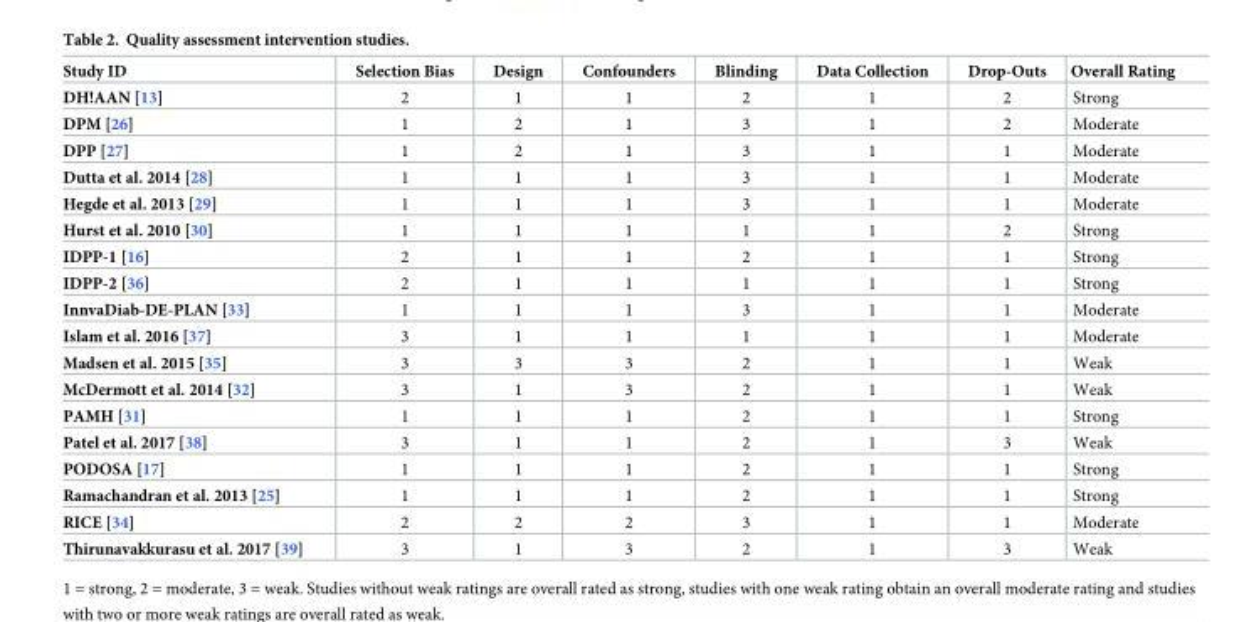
<table><thead><tr><td>Study ID</td><td>Selection Bias</td><td>Design</td><td>Confounders</td><td>Blinding</td><td>Data Collection</td><td>Drop-Outs</td><td>Overall Rating</td></tr></thead><tbody><tr><td>DH!AAN [13]</td><td>2</td><td>1</td><td>1</td><td>2</td><td>1</td><td>2</td><td>Strong</td></tr><tr><td>DPM [26]</td><td>1</td><td>2</td><td>1</td><td>3</td><td>1</td><td>2</td><td>Moderate</td></tr><tr><td>DPP [27]</td><td>1</td><td>2</td><td>1</td><td>3</td><td>1</td><td>1</td><td>Moderate</td></tr><tr><td>Dutta et al. 2014 [28]</td><td>1</td><td>1</td><td>1</td><td>3</td><td>1</td><td>1</td><td>Moderate</td></tr><tr><td>Hegde et al. 2013 [29]</td><td>1</td><td>1</td><td>1</td><td>3</td><td>1</td><td>1</td><td>Moderate</td></tr><tr><td>Hurst et al. 2010 [30]</td><td>1</td><td>1</td><td>1</td><td>1</td><td>1</td><td>2</td><td>Strong</td></tr><tr><td>IDPP-1 [16]</td><td>2</td><td>1</td><td>1</td><td>2</td><td>1</td><td>1</td><td>Strong</td></tr><tr><td>IDPP-2 [36]</td><td>2</td><td>1</td><td>1</td><td>1</td><td>1</td><td>1</td><td>Strong</td></tr><tr><td>InnvaDiab-DE-PLAN [33]</td><td>1</td><td>1</td><td>1</td><td>3</td><td>1</td><td>1</td><td>Moderate</td></tr><tr><td>Islam et al. 2016 [37]</td><td>3</td><td>1</td><td>1</td><td>1</td><td>1</td><td>1</td><td>Moderate</td></tr><tr><td>Madsen et al. 2015 [35]</td><td>3</td><td>3</td><td>3</td><td>2</td><td>1</td><td>1</td><td>Weak</td></tr><tr><td>McDermott et al. 2014 [32]</td><td>3</td><td>1</td><td>3</td><td>2</td><td>1</td><td>1</td><td>Weak</td></tr><tr><td>PAMH [31]</td><td>1</td><td>1</td><td>1</td><td>2</td><td>1</td><td>1</td><td>Strong</td></tr><tr><td>Patel et al. 2017 [38]</td><td>3</td><td>1</td><td>1</td><td>2</td><td>1</td><td>3</td><td>Weak</td></tr><tr><td>PODOSA [17]</td><td>1</td><td>1</td><td>1</td><td>2</td><td>1</td><td>1</td><td>Strong</td></tr><tr><td>Ramachandran et al. 2013 [25]</td><td>1</td><td>1</td><td>1</td><td>2</td><td>1</td><td>1</td><td>Strong</td></tr><tr><td>RICE [34]</td><td>2</td><td>2</td><td>2</td><td>3</td><td>1</td><td>1</td><td>Moderate</td></tr><tr><td>Thirunavakkurasu et al. 2017 [39]</td><td>3</td><td>1</td><td>3</td><td>2</td><td>1</td><td>3</td><td>Weak</td></tr></tbody></table>